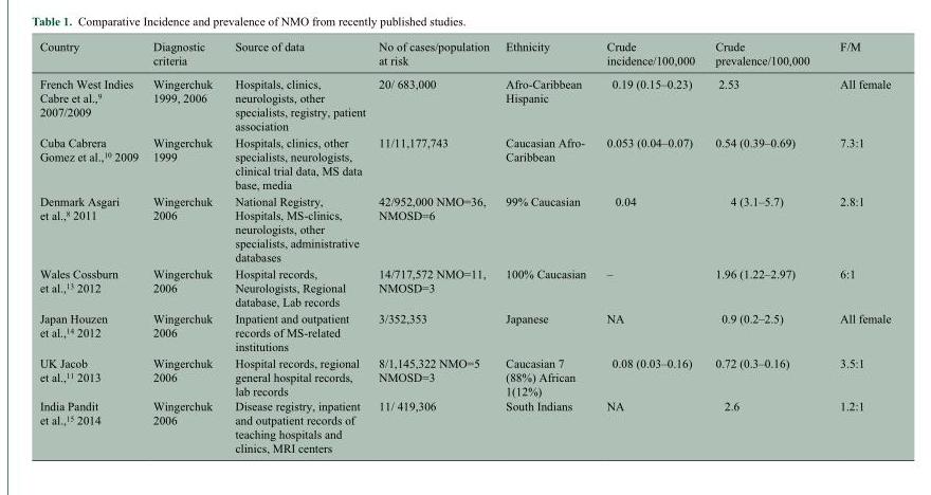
<table><thead><tr><td>Country</td><td>Diagnostic criteria</td><td>Source of data</td><td>No of cases/population at risk</td><td>Ethnicity</td><td>Crude incidence/100,000</td><td>Crude prevalence/100,000</td><td>F/M</td></tr></thead><tbody><tr><td>French West Indies Cabre et al.,<sup>9</sup> 2007/2009</td><td>Wingerchuk 1999, 2006</td><td>Hospitals, clinics, neurologists, other specialists, registry, patient association</td><td>20/ 683,000</td><td>Afro-Caribbean Hispanic</td><td>0.19 (0.15–0.23)</td><td>2.53</td><td>All female</td></tr><tr><td>Cuba Cabrera Gomez et al.,<sup>10</sup> 2009</td><td>Wingerchuk 1999</td><td>Hospitals, clinics, other specialists, neurologists, clinical trial data, MS data base, media</td><td>11/11,177,743</td><td>Caucasian Afro- Caribbean</td><td>0.053 (0.04–0.07)</td><td>0.54 (0.39–0.69)</td><td>7.3:1</td></tr><tr><td>Denmark Asgari et al.,<sup>8</sup> 2011</td><td>Wingerchuk 2006</td><td>National Registry, Hospitals, MS-clinics, neurologists, other specialists, administrative databases</td><td>42/952,000 NMO=36, NMOSD=6</td><td>99% Caucasian</td><td>0.04</td><td>4 (3.1–5.7)</td><td>2.8:1</td></tr><tr><td>Wales Cossburn et al.,<sup>13</sup> 2012</td><td>Wingerchuk 2006</td><td>Hospital records, Neurologists, Regional database, Lab records</td><td>14/717,572 NMO=11, NMOSD=3</td><td>100% Caucasian</td><td>–</td><td>1.96 (1.22–2.97)</td><td>6:1</td></tr><tr><td>Japan Houzen et al.,<sup>14</sup> 2012</td><td>Wingerchuk 2006</td><td>Inpatient and outpatient records of MS-related institutions</td><td>3/352,353</td><td>Japanese</td><td>NA</td><td>0.9 (0.2–2.5)</td><td>All female</td></tr><tr><td>UK Jacob et al.,<sup>11</sup> 2013</td><td>Wingerchuk 2006</td><td>Hospital records, regional general hospital records, lab records</td><td>8/1,145,322 NMO=5 NMOSD=3</td><td>Caucasian 7 (88%) African 1(12%)</td><td>0.08 (0.03–0.16)</td><td>0.72 (0.3–0.16)</td><td>3.5:1</td></tr><tr><td>India Pandit et al.,<sup>15</sup> 2014</td><td>Wingerchuk 2006</td><td>Disease registry, inpatient and outpatient records of teaching hospitals and clinics, MRI centers</td><td>11/ 419,306</td><td>South Indians</td><td>NA</td><td>2.6</td><td>1.2:1</td></tr></tbody></table>